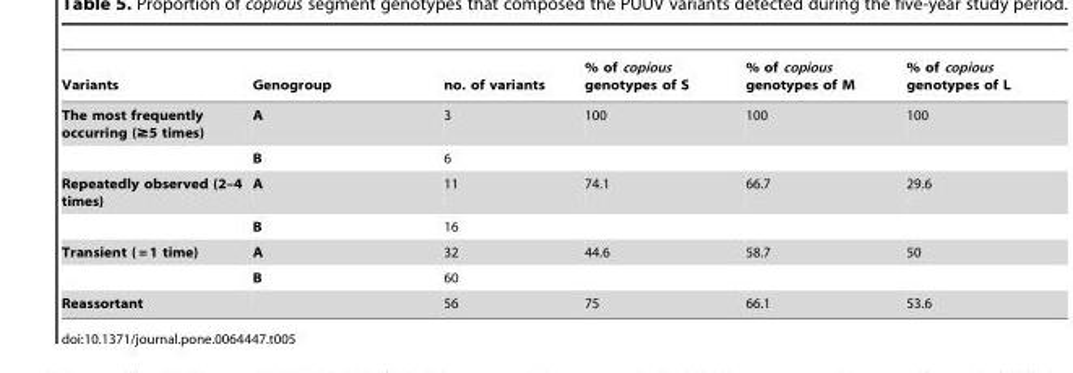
<table><thead><tr><td>Variants</td><td>Genogroup</td><td>no. of variants</td><td>% of copious genotypes of S</td><td>% of copious genotypes of M</td><td>% of copious genotypes of L</td></tr></thead><tbody><tr><td rowspan="2">The most frequently occurring (≥5 times)</td><td>A</td><td>3</td><td>100</td><td>100</td><td>100</td></tr><tr><td>B</td><td>6</td><td></td><td></td><td></td></tr><tr><td rowspan="2">Repeatedly observed (2–4 times)</td><td>A</td><td>11</td><td>74.1</td><td>66.7</td><td>29.6</td></tr><tr><td>B</td><td>16</td><td></td><td></td><td></td></tr><tr><td rowspan="2">Transient ( = 1 time)</td><td>A</td><td>32</td><td>44.6</td><td>58.7</td><td>50</td></tr><tr><td>B</td><td>60</td><td></td><td></td><td></td></tr><tr><td>Reassortant</td><td></td><td>56</td><td>75</td><td>66.1</td><td>53.6</td></tr></tbody></table>